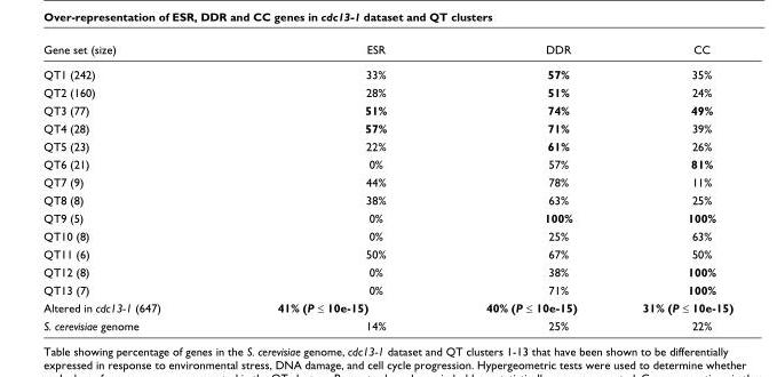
<table><thead><tr><td>Gene set (size)</td><td>ESR</td><td>DDR</td><td>CC</td></tr></thead><tbody><tr><td>QT1 (242)</td><td>33%</td><td>57%</td><td>35%</td></tr><tr><td>QT2 (160)</td><td>28%</td><td>51%</td><td>24%</td></tr><tr><td>QT3 (77)</td><td>51%</td><td>74%</td><td>49%</td></tr><tr><td>QT4 (28)</td><td>57%</td><td>71%</td><td>39%</td></tr><tr><td>QT5 (23)</td><td>22%</td><td>61%</td><td>26%</td></tr><tr><td>QT6 (21)</td><td>0%</td><td>57%</td><td>81%</td></tr><tr><td>QT7 (9)</td><td>44%</td><td>78%</td><td>11%</td></tr><tr><td>QT8 (8)</td><td>38%</td><td>63%</td><td>25%</td></tr><tr><td>QT9 (5)</td><td>0%</td><td>100%</td><td>100%</td></tr><tr><td>QT10 (8)</td><td>0%</td><td>25%</td><td>63%</td></tr><tr><td>QT11 (6)</td><td>50%</td><td>67%</td><td>50%</td></tr><tr><td>QT12 (8)</td><td>0%</td><td>38%</td><td>100%</td></tr><tr><td>QT13 (7)</td><td>0%</td><td>71%</td><td>100%</td></tr><tr><td>Altered in cdc13-1 (647)</td><td>41% (P ≤ 10e-15)</td><td>40% (P ≤ 10e-15)</td><td>31% (P ≤ 10e-15)</td></tr><tr><td>S. cerevisiae genome</td><td>14%</td><td>25%</td><td>22%</td></tr></tbody></table>